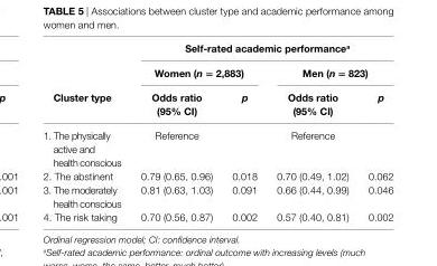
<table><thead><tr><td rowspan="3">cluster type</td><td colspan="4">self-rated academic performance<sup>a</sup></td></tr><tr><td colspan="2">Women (n = 2,883)</td><td colspan="2">Men (n = 823)</td></tr><tr><td>Odds ratio (95% ci)</td><td>p</td><td>Odds ratio (95% ci)</td><td>p</td></tr></thead><tbody><tr><td>1. The physically active and health conscious</td><td>Reference</td><td></td><td>Reference</td><td></td></tr><tr><td>2. The abstinent</td><td>0.79 (0.65, 0.96)</td><td>0.018</td><td>0.70 (0.49, 1.02)</td><td>0.062</td></tr><tr><td>3. The moderately health conscious</td><td>0.81 (0.63, 1.03)</td><td>0.091</td><td>0.66 (0.44, 0.99)</td><td>0.046</td></tr><tr><td>4. The risk taking</td><td>0.70 (0.56, 0.87)</td><td>0.002</td><td>0.57 (0.40, 0.81)</td><td>0.002</td></tr></tbody></table>